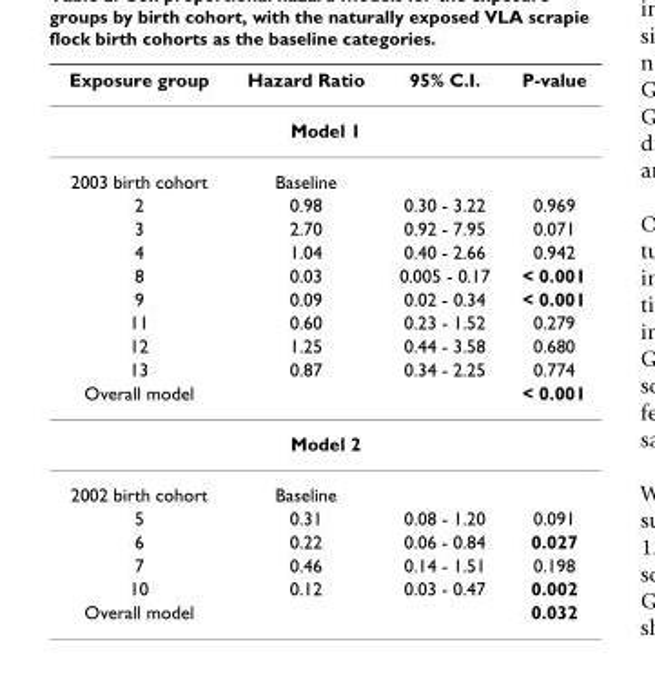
<table><thead><tr><td>Exposure group</td><td>Hazard Ratio</td><td>95% C.I.</td><td>P-value</td></tr></thead><tbody><tr><td colspan="4">Model 1</td></tr><tr><td>2003 birth cohort</td><td>Baseline</td><td></td><td></td></tr><tr><td>2</td><td>0.98</td><td>0.30 - 3.22</td><td>0.969</td></tr><tr><td>3</td><td>2.70</td><td>0.92 - 7.95</td><td>0.071</td></tr><tr><td>4</td><td>1.04</td><td>0.40 - 2.66</td><td>0.942</td></tr><tr><td>8</td><td>0.03</td><td>0.005 - 0.17</td><td>&lt; 0.001</td></tr><tr><td>9</td><td>0.09</td><td>0.02 - 0.34</td><td>&lt; 0.001</td></tr><tr><td>11</td><td>0.60</td><td>0.23 - 1.52</td><td>0.279</td></tr><tr><td>12</td><td>1.25</td><td>0.44 - 3.58</td><td>0.680</td></tr><tr><td>13</td><td>0.87</td><td>0.34 - 2.25</td><td>0.774</td></tr><tr><td>Overall model</td><td></td><td></td><td>&lt; 0.001</td></tr><tr><td colspan="4">Model 2</td></tr><tr><td>2002 birth cohort</td><td>Baseline</td><td></td><td></td></tr><tr><td>5</td><td>0.31</td><td>0.08 - 1.20</td><td>0.091</td></tr><tr><td>6</td><td>0.22</td><td>0.06 - 0.84</td><td>0.027</td></tr><tr><td>7</td><td>0.46</td><td>0.14 - 1.51</td><td>0.198</td></tr><tr><td>10</td><td>0.12</td><td>0.03 - 0.47</td><td>0.002</td></tr><tr><td>Overall model</td><td></td><td></td><td>0.032</td></tr></tbody></table>